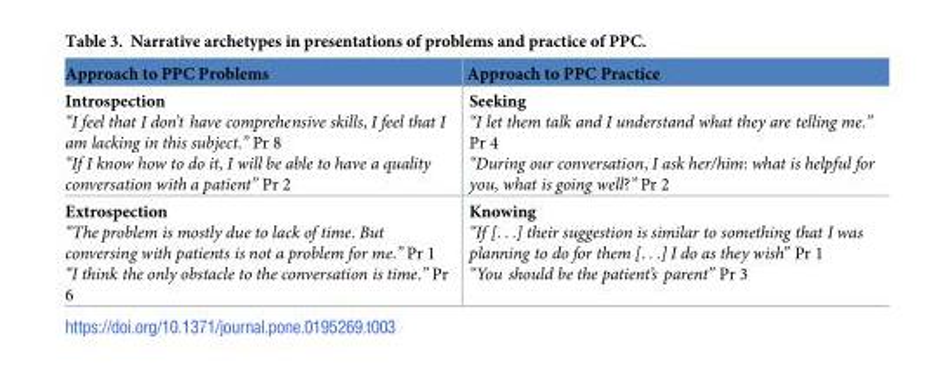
<table><thead><tr><td>Approach to PPC Problems</td><td>Approach to PPC Practice</td></tr></thead><tbody><tr><td>Introspection “I feel that I don’t have comprehensive skills, I feel that I am lacking in this subject.” Pr 8 “If I know how to do it, I will be able to have a quality conversation with a patient” Pr 2</td><td>Seeking “I let them talk and I understand what they are telling me.” Pr 4 “During our conversation, I ask her/him: what is helpful for you, what is going well?” Pr 2</td></tr><tr><td>Extrospection “The problem is mostly due to lack of time. But conversing with patients is not a problem for me.” Pr 1 “I think the only obstacle to the conversation is time.” Pr 6</td><td>Knowing “If [. . .] their suggestion is similar to something that I was planning to do for them [. . .] I do as they wish” Pr 1 “You should be the patient’s parent” Pr 3</td></tr></tbody></table>